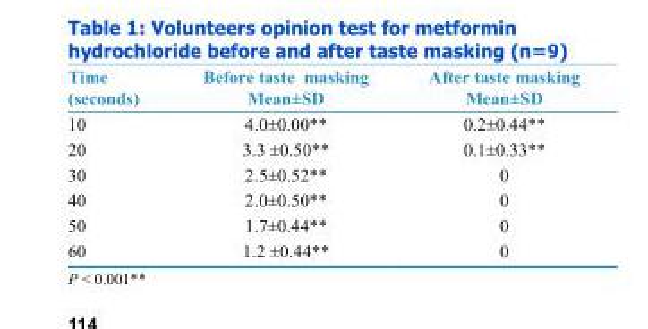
<table><thead><tr><td>Time (seconds)</td><td>Before taste masking Mean±SD</td><td>After taste masking Mean±SD</td></tr></thead><tbody><tr><td>10</td><td>4.0±0.00**</td><td>0.2±0.44**</td></tr><tr><td>20</td><td>3.3 ±0.50**</td><td>0.1±0.33**</td></tr><tr><td>30</td><td>2.5±0.52**</td><td>0</td></tr><tr><td>40</td><td>2.0±0.50**</td><td>0</td></tr><tr><td>50</td><td>1.7±0.44**</td><td>0</td></tr><tr><td>60</td><td>1.2 ±0.44**</td><td>0</td></tr></tbody></table>